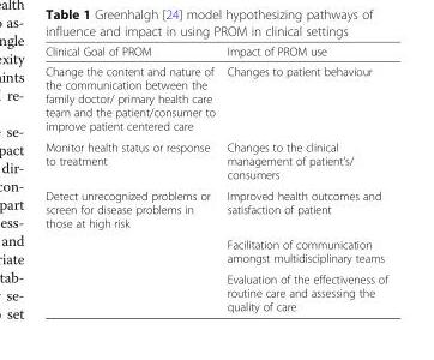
<table><thead><tr><td>Clinical Goal of PROM</td><td>Impact of PROM use</td></tr></thead><tbody><tr><td>Change the content and nature of the communication between the family doctor/ primary health care team and the patient/consumer to improve patient centered care</td><td>Changes to patient behaviour</td></tr><tr><td>Monitor health status or response to treatment</td><td>Changes to the clinical management of patient’s/ consumers</td></tr><tr><td rowspan="3">Detect unrecognized problems or screen for disease problems in those at high risk</td><td>Improved health outcomes and satisfaction of patient</td></tr><tr><td>Facilitation of communication amongst multidisciplinary teams</td></tr><tr><td>Evaluation of the effectiveness of routine care and assessing the quality of care</td></tr></tbody></table>